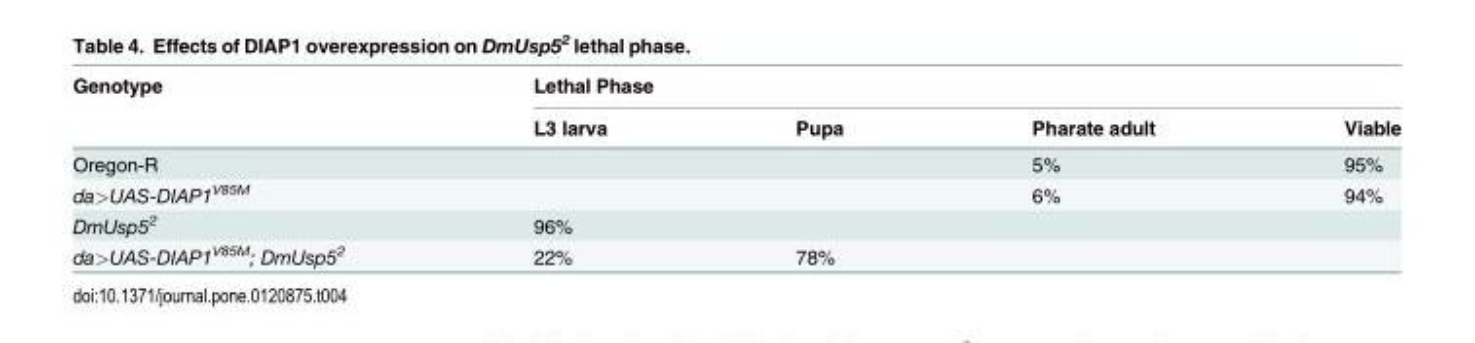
<table><thead><tr><td rowspan="2">Genotype</td><td colspan="4">Lethal Phase</td></tr><tr><td>L3 larva</td><td>Pupa</td><td>Pharate adult</td><td>Viable</td></tr></thead><tbody><tr><td>Oregon-R</td><td></td><td></td><td>5%</td><td>95%</td></tr><tr><td>da&gt;UAS-DIAP1<sup>V85M</sup></td><td></td><td></td><td>6%</td><td>94%</td></tr><tr><td>DmUsp5<sup>2</sup></td><td>96%</td><td></td><td></td><td></td></tr><tr><td>da&gt;UAS-DIAP1<sup>V85M</sup>; DmUsp5<sup>2</sup></td><td>22%</td><td>78%</td><td></td><td></td></tr></tbody></table>